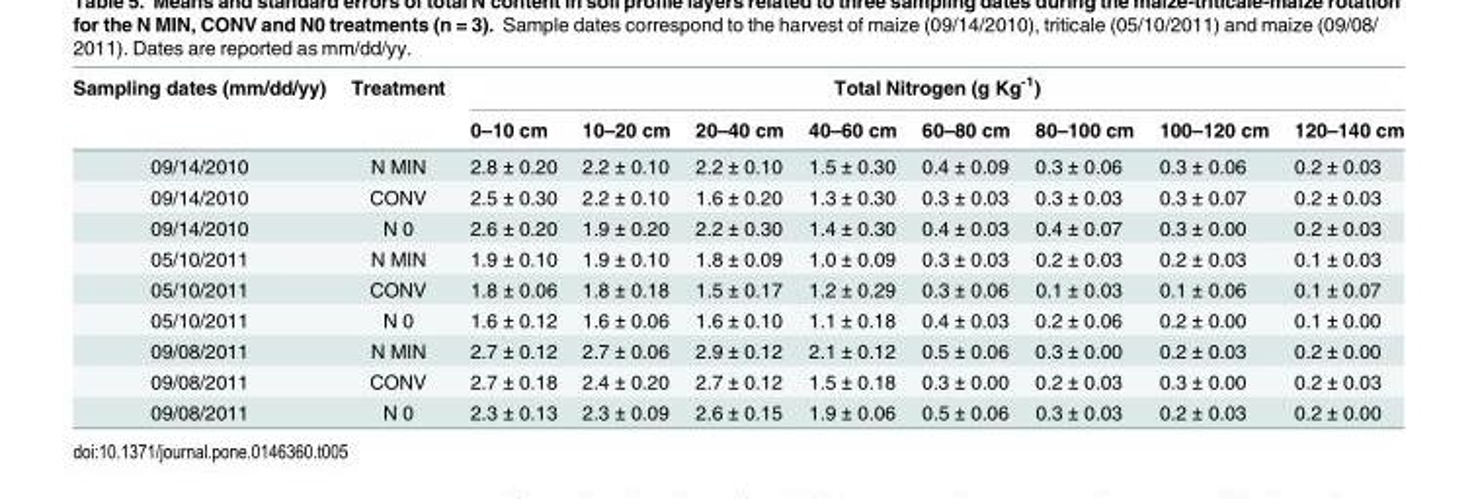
<table><thead><tr><td rowspan="2">Sampling dates (mm/dd/yy)</td><td rowspan="2">Treatment</td><td colspan="8">Total Nitrogen (g Kg<sup>-1</sup>)</td></tr><tr><td>0–10 cm</td><td>10–20 cm</td><td>20–40 cm</td><td>40–60 cm</td><td>60–80 cm</td><td>80–100 cm</td><td>100–120 cm</td><td>120–140 cm</td></tr></thead><tbody><tr><td>09/14/2010</td><td>N MIN</td><td>2.8 ± 0.20</td><td>2.2 ± 0.10</td><td>2.2 ± 0.10</td><td>1.5 ± 0.30</td><td>0.4 ± 0.09</td><td>0.3 ± 0.06</td><td>0.3 ± 0.06</td><td>0.2 ± 0.03</td></tr><tr><td>09/14/2010</td><td>CONV</td><td>2.5 ± 0.30</td><td>2.2 ± 0.10</td><td>1.6 ± 0.20</td><td>1.3 ± 0.30</td><td>0.3 ± 0.03</td><td>0.3 ± 0.03</td><td>0.3 ± 0.07</td><td>0.2 ± 0.03</td></tr><tr><td>09/14/2010</td><td>N 0</td><td>2.6 ± 0.20</td><td>1.9 ± 0.20</td><td>2.2 ± 0.30</td><td>1.4 ± 0.30</td><td>0.4 ± 0.03</td><td>0.4 ± 0.07</td><td>0.3 ± 0.00</td><td>0.2 ± 0.03</td></tr><tr><td>05/10/2011</td><td>N MIN</td><td>1.9 ± 0.10</td><td>1.9 ± 0.10</td><td>1.8 ± 0.09</td><td>1.0 ± 0.09</td><td>0.3 ± 0.03</td><td>0.2 ± 0.03</td><td>0.2 ± 0.03</td><td>0.1 ± 0.03</td></tr><tr><td>05/10/2011</td><td>CONV</td><td>1.8 ± 0.06</td><td>1.8 ± 0.18</td><td>1.5 ± 0.17</td><td>1.2 ± 0.29</td><td>0.3 ± 0.06</td><td>0.1 ± 0.03</td><td>0.1 ± 0.06</td><td>0.1 ± 0.07</td></tr><tr><td>05/10/2011</td><td>N 0</td><td>1.6 ± 0.12</td><td>1.6 ± 0.06</td><td>1.6 ± 0.10</td><td>1.1 ± 0.18</td><td>0.4 ± 0.03</td><td>0.2 ± 0.06</td><td>0.2 ± 0.00</td><td>0.1 ± 0.00</td></tr><tr><td>09/08/2011</td><td>N MIN</td><td>2.7 ± 0.12</td><td>2.7 ± 0.06</td><td>2.9 ± 0.12</td><td>2.1 ± 0.12</td><td>0.5 ± 0.06</td><td>0.3 ± 0.00</td><td>0.2 ± 0.03</td><td>0.2 ± 0.00</td></tr><tr><td>09/08/2011</td><td>CONV</td><td>2.7 ± 0.18</td><td>2.4 ± 0.20</td><td>2.7 ± 0.12</td><td>1.5 ± 0.18</td><td>0.3 ± 0.00</td><td>0.2 ± 0.03</td><td>0.3 ± 0.00</td><td>0.2 ± 0.03</td></tr><tr><td>09/08/2011</td><td>N 0</td><td>2.3 ± 0.13</td><td>2.3 ± 0.09</td><td>2.6 ± 0.15</td><td>1.9 ± 0.06</td><td>0.5 ± 0.06</td><td>0.3 ± 0.03</td><td>0.2 ± 0.03</td><td>0.2 ± 0.00</td></tr></tbody></table>